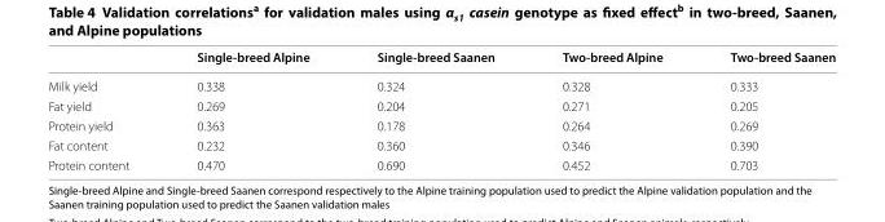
<table><thead><tr><td></td><td>Single‑breed Alpine</td><td>Single‑breed Saanen</td><td>Two‑breed Alpine</td><td>Two‑breed Saanen</td></tr></thead><tbody><tr><td>Milk yield</td><td>0.338</td><td>0.324</td><td>0.328</td><td>0.333</td></tr><tr><td>Fat yield</td><td>0.269</td><td>0.204</td><td>0.271</td><td>0.205</td></tr><tr><td>Protein yield</td><td>0.363</td><td>0.178</td><td>0.264</td><td>0.269</td></tr><tr><td>Fat content</td><td>0.232</td><td>0.360</td><td>0.346</td><td>0.390</td></tr><tr><td>Protein content</td><td>0.470</td><td>0.690</td><td>0.452</td><td>0.703</td></tr></tbody></table>